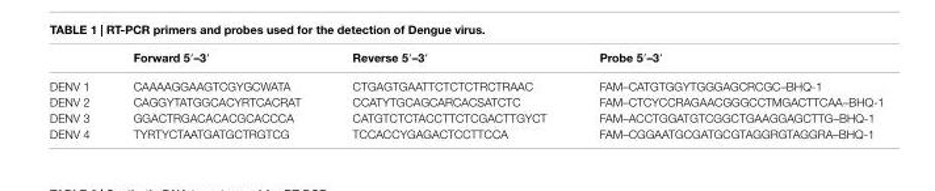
<table><thead><tr><td></td><td>Forward 5′–3′</td><td>reverse 5′–3′</td><td>Probe 5′–3′</td></tr></thead><tbody><tr><td>DENV 1</td><td>CAAAAGGAAGTCGYGCWATA</td><td>CTGAGTGAATTCTCTCTRCTRAAC</td><td>FAM–CATGTGGYTGGGAGCRCGC–BHQ-1</td></tr><tr><td>DENV 2</td><td>CAGGYTATGGCACYRTCACRAT</td><td>CCATYTGCAGCARCACSATCTC</td><td>FAM–CTCYCCRAGAACGGGCCTMGACTTCAA–BHQ-1</td></tr><tr><td>DENV 3</td><td>GGACTRGACACACGCACCCA</td><td>CATGTCTCTACCTTCTCGACTTGYCT</td><td>FAM–ACCTGGATGTCGGCTGAAGGAGCTTG–BHQ-1</td></tr><tr><td>DENV 4</td><td>TYRTYCTAATGATGCTRGTCG</td><td>TCCACCYGAGACTCCTTCCA</td><td>FAM–CGGAATGCGATGCGTAGGRGTAGGRA–BHQ-1</td></tr></tbody></table>